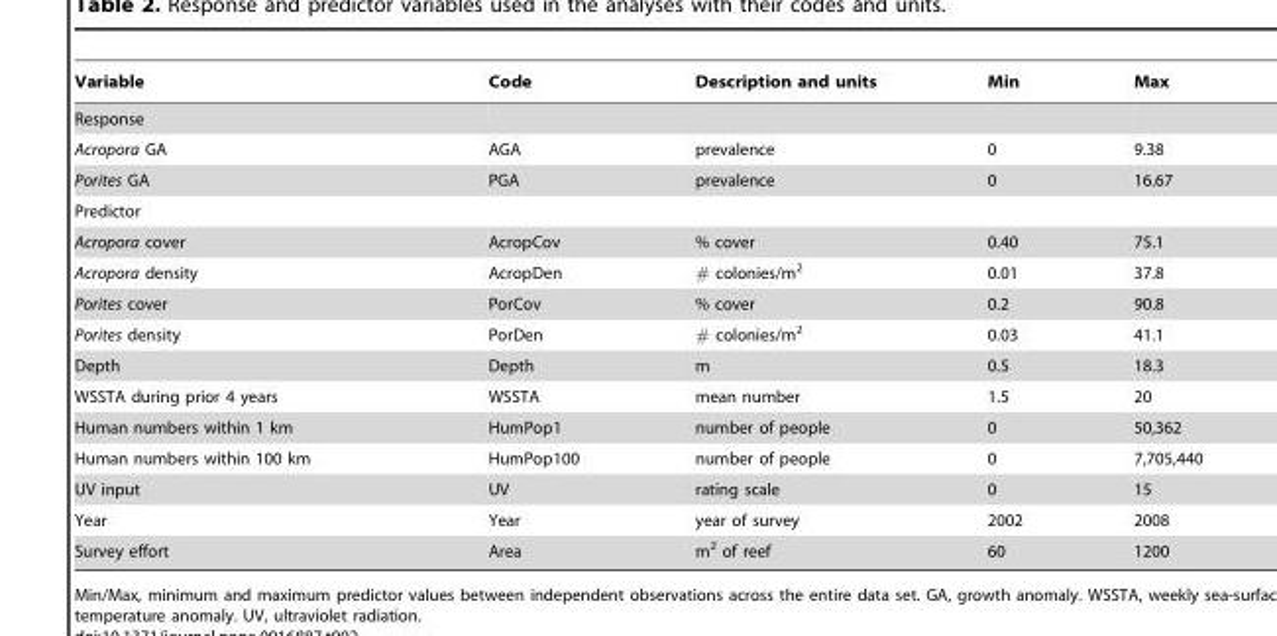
<table><thead><tr><td>Variable</td><td>Code</td><td>Description and units</td><td>Min</td><td>Max</td></tr></thead><tbody><tr><td colspan="5">Response</td></tr><tr><td>Acropora GA</td><td>AGA</td><td>prevalence</td><td>0</td><td>9.38</td></tr><tr><td>Porites GA</td><td>PGA</td><td>prevalence</td><td>0</td><td>16.67</td></tr><tr><td colspan="5">Predictor</td></tr><tr><td>Acropora cover</td><td>AcropCov</td><td>% cover</td><td>0.40</td><td>75.1</td></tr><tr><td>Acropora density</td><td>AcropDen</td><td># colonies/m<sup>2</sup></td><td>0.01</td><td>37.8</td></tr><tr><td>Porites cover</td><td>PorCov</td><td>% cover</td><td>0.2</td><td>90.8</td></tr><tr><td>Porites density</td><td>PorDen</td><td># colonies/m<sup>2</sup></td><td>0.03</td><td>41.1</td></tr><tr><td>Depth</td><td>Depth</td><td>m</td><td>0.5</td><td>18.3</td></tr><tr><td>WSSTA during prior 4 years</td><td>WSSTA</td><td>mean number</td><td>1.5</td><td>20</td></tr><tr><td>Human numbers within 1 km</td><td>HumPop1</td><td>number of people</td><td>0</td><td>50,362</td></tr><tr><td>Human numbers within 100 km</td><td>HumPop100</td><td>number of people</td><td>0</td><td>7,705,440</td></tr><tr><td>UV input</td><td>UV</td><td>rating scale</td><td>0</td><td>15</td></tr><tr><td>Year</td><td>Year</td><td>year of survey</td><td>2002</td><td>2008</td></tr><tr><td>Survey effort</td><td>Area</td><td>m<sup>2</sup> of reef</td><td>60</td><td>1200</td></tr></tbody></table>